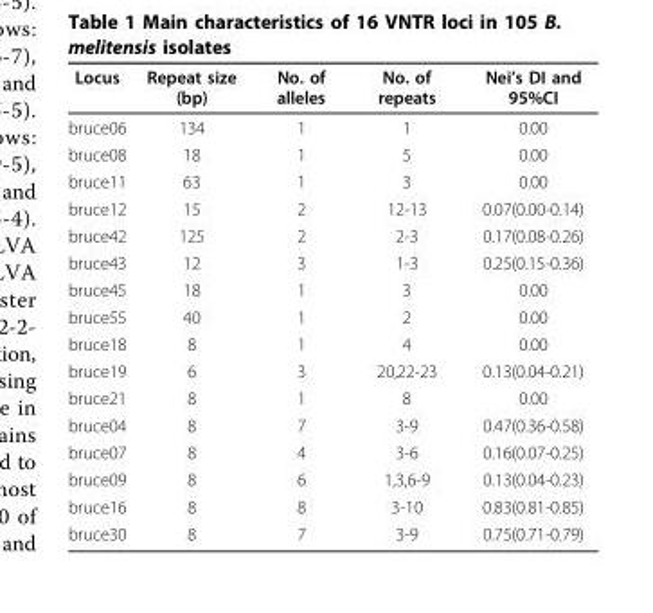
<table><thead><tr><td>Locus</td><td>Repeat size (bp)</td><td>No. of alleles</td><td>No. of repeats</td><td>Nei’s DI and 95%CI</td></tr></thead><tbody><tr><td>bruce06</td><td>134</td><td>1</td><td>1</td><td>0.00</td></tr><tr><td>bruce08</td><td>18</td><td>1</td><td>5</td><td>0.00</td></tr><tr><td>bruce11</td><td>63</td><td>1</td><td>3</td><td>0.00</td></tr><tr><td>bruce12</td><td>15</td><td>2</td><td>12-13</td><td>0.07(0.00-0.14)</td></tr><tr><td>bruce42</td><td>125</td><td>2</td><td>2-3</td><td>0.17(0.08-0.26)</td></tr><tr><td>bruce43</td><td>12</td><td>3</td><td>1-3</td><td>0.25(0.15-0.36)</td></tr><tr><td>bruce45</td><td>18</td><td>1</td><td>3</td><td>0.00</td></tr><tr><td>bruce55</td><td>40</td><td>1</td><td>2</td><td>0.00</td></tr><tr><td>bruce18</td><td>8</td><td>1</td><td>4</td><td>0.00</td></tr><tr><td>bruce19</td><td>6</td><td>3</td><td>20,22-23</td><td>0.13(0.04-0.21)</td></tr><tr><td>bruce21</td><td>8</td><td>1</td><td>8</td><td>0.00</td></tr><tr><td>bruce04</td><td>8</td><td>7</td><td>3-9</td><td>0.47(0.36-0.58)</td></tr><tr><td>bruce07</td><td>8</td><td>4</td><td>3-6</td><td>0.16(0.07-0.25)</td></tr><tr><td>bruce09</td><td>8</td><td>6</td><td>1,3,6-9</td><td>0.13(0.04-0.23)</td></tr><tr><td>bruce16</td><td>8</td><td>8</td><td>3-10</td><td>0.83(0.81-0.85)</td></tr><tr><td>bruce30</td><td>8</td><td>7</td><td>3-9</td><td>0.75(0.71-0.79)</td></tr></tbody></table>